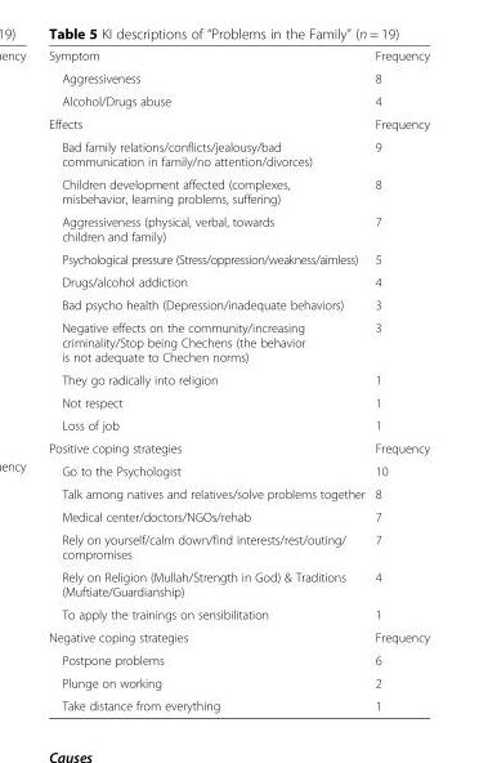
<table><tbody><tr><td>Symptom</td><td>Frequency</td></tr><tr><td>Aggressiveness</td><td>8</td></tr><tr><td>Alcohol/Drugs abuse</td><td>4</td></tr><tr><td>Effects</td><td>Frequency</td></tr><tr><td>Bad family relations/conflicts/jealousy/bad communication in family/no attention/divorces)</td><td>9</td></tr><tr><td>Children development affected (complexes, misbehavior, learning problems, suffering)</td><td>8</td></tr><tr><td>Aggressiveness (physical, verbal, towards children and family)</td><td>7</td></tr><tr><td>Psychological pressure (Stress/oppression/weakness/aimless)</td><td>5</td></tr><tr><td>Drugs/alcohol addiction</td><td>4</td></tr><tr><td>Bad psycho health (Depression/inadequate behaviors)</td><td>3</td></tr><tr><td>Negative effects on the community/increasing criminality/Stop being Chechens (the behavior is not adequate to Chechen norms)</td><td>3</td></tr><tr><td>They go radically into religion</td><td>1</td></tr><tr><td>Not respect</td><td>1</td></tr><tr><td>Loss of job</td><td>1</td></tr><tr><td>Positive coping strategies</td><td>Frequency</td></tr><tr><td>Go to the Psychologist</td><td>10</td></tr><tr><td>Talk among natives and relatives/solve problems together</td><td>8</td></tr><tr><td>Medical center/doctors/NGOs/rehab</td><td>7</td></tr><tr><td>Rely on yourself/calm down/find interests/rest/outing/ compromises</td><td>7</td></tr><tr><td>Rely on Religion (Mullah/Strength in God) &amp; Traditions (Muftiate/Guardianship)</td><td>4</td></tr><tr><td>To apply the trainings on sensibilitation</td><td>1</td></tr><tr><td>Negative coping strategies</td><td>Frequency</td></tr><tr><td>Postpone problems</td><td>6</td></tr><tr><td>Plunge on working</td><td>2</td></tr><tr><td>Take distance from everything</td><td>1</td></tr></tbody></table>